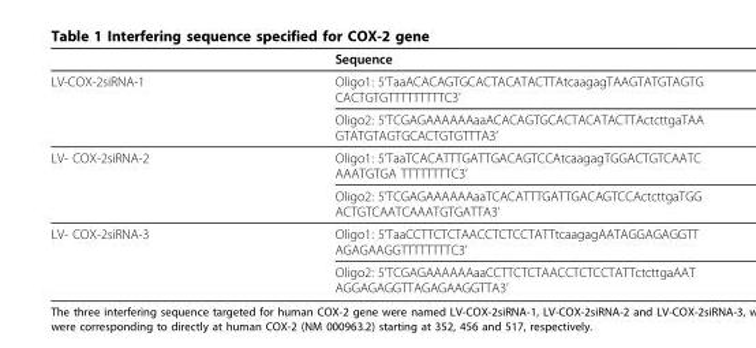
<table><thead><tr><td></td><td>Sequence</td></tr></thead><tbody><tr><td rowspan="2">LV-COX-2siRNA-1</td><td>Oligo1: 5’TaaACACAGTGCACTACATACTTAtcaagagTAAGTATGTAGTG CACTGTGTTTTTTTTTC3’</td></tr><tr><td>Oligo2: 5’TCGAGAAAAAAaaACACAGTGCACTACATACTTActcttgaTAA GTATGTAGTGCACTGTGTTTA3’</td></tr><tr><td rowspan="2">LV- COX-2siRNA-2</td><td>Oligo1: 5’TaaTCACATTTGATTGACAGTCCAtcaagagTGGACTGTCAATC AAATGTGA TTTTTTTTC3’</td></tr><tr><td>Oligo2: 5’TCGAGAAAAAAaaTCACATTTGATTGACAGTCCActcttgaTGG ACTGTCAATCAAATGTGATTA3’</td></tr><tr><td rowspan="2">LV- COX-2siRNA-3</td><td>Oligo1: 5’TaaCCTTCTCTAACCTCTCCTATTtcaagagAATAGGAGAGGTT AGAGAAGGTTTTTTTTC3’</td></tr><tr><td>Oligo2: 5’TCGAGAAAAAAaaCCTTCTCTAACCTCTCCTATTctcttgaAAT AGGAGAGGTTAGAGAAGGTTA3’</td></tr></tbody></table>